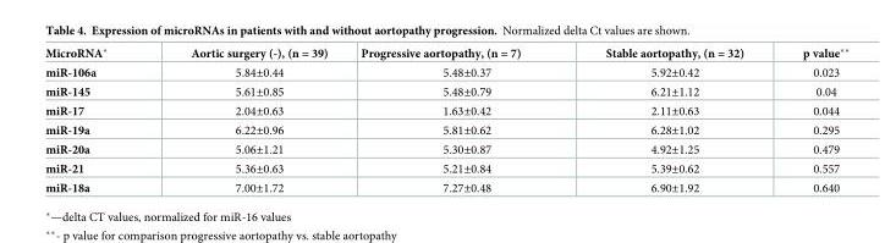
<table><thead><tr><td>MicroRNA*</td><td>Aortic surgery (-), (n = 39)</td><td>Progressive aortopathy, (n = 7)</td><td>Stable aortopathy, (n = 32)</td><td>p value**</td></tr></thead><tbody><tr><td>miR-106a</td><td>5.84±0.44</td><td>5.48±0.37</td><td>5.92±0.42</td><td>0.023</td></tr><tr><td>miR-145</td><td>5.61±0.85</td><td>5.48±0.79</td><td>6.21±1.12</td><td>0.04</td></tr><tr><td>miR-17</td><td>2.04±0.63</td><td>1.63±0.42</td><td>2.11±0.63</td><td>0.044</td></tr><tr><td>miR-19a</td><td>6.22±0.96</td><td>5.81±0.62</td><td>6.28±1.02</td><td>0.295</td></tr><tr><td>miR-20a</td><td>5.06±1.21</td><td>5.30±0.87</td><td>4.92±1.25</td><td>0.479</td></tr><tr><td>miR-21</td><td>5.36±0.63</td><td>5.21±0.84</td><td>5.39±0.62</td><td>0.557</td></tr><tr><td>miR-18a</td><td>7.00±1.72</td><td>7.27±0.48</td><td>6.90±1.92</td><td>0.640</td></tr></tbody></table>